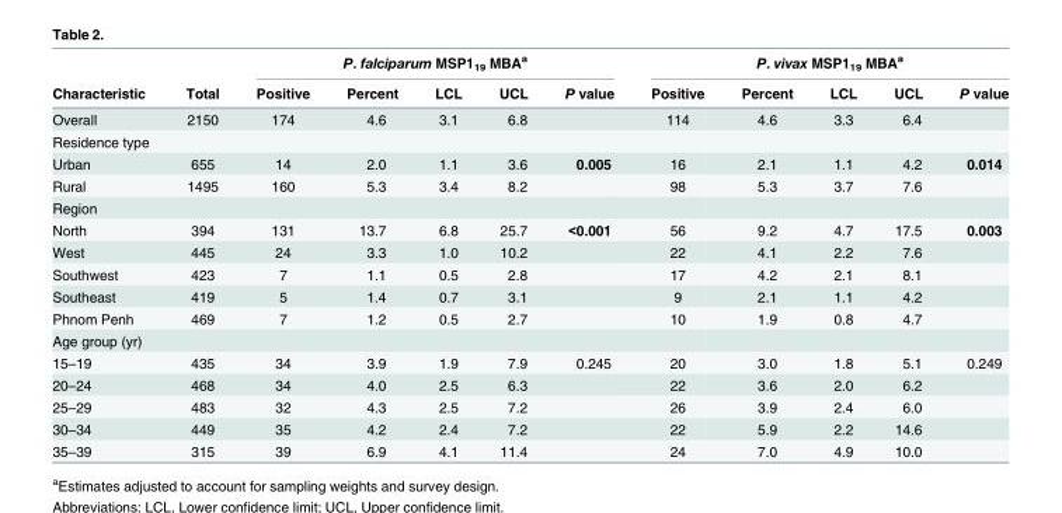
<table><thead><tr><td rowspan="2">Characteristic</td><td rowspan="2">Total</td><td colspan="5">P. falciparum MSP1<sub>19</sub> MBA<sup>a</sup></td><td colspan="5">P. vivax MSP1<sub>19</sub> MBA<sup>a</sup></td></tr><tr><td>Positive</td><td>Percent</td><td>LCL</td><td>UCL</td><td>P value</td><td>Positive</td><td>Percent</td><td>LCL</td><td>UCL</td><td>P value</td></tr></thead><tbody><tr><td>Overall</td><td>2150</td><td>174</td><td>4.6</td><td>3.1</td><td>6.8</td><td></td><td>114</td><td>4.6</td><td>3.3</td><td>6.4</td><td></td></tr><tr><td colspan="12">Residence type</td></tr><tr><td>Urban</td><td>655</td><td>14</td><td>2.0</td><td>1.1</td><td>3.6</td><td>0.005</td><td>16</td><td>2.1</td><td>1.1</td><td>4.2</td><td>0.014</td></tr><tr><td>Rural</td><td>1495</td><td>160</td><td>5.3</td><td>3.4</td><td>8.2</td><td></td><td>98</td><td>5.3</td><td>3.7</td><td>7.6</td><td></td></tr><tr><td colspan="12">Region</td></tr><tr><td>North</td><td>394</td><td>131</td><td>13.7</td><td>6.8</td><td>25.7</td><td>&lt;0.001</td><td>56</td><td>9.2</td><td>4.7</td><td>17.5</td><td>0.003</td></tr><tr><td>West</td><td>445</td><td>24</td><td>3.3</td><td>1.0</td><td>10.2</td><td></td><td>22</td><td>4.1</td><td>2.2</td><td>7.6</td><td></td></tr><tr><td>Southwest</td><td>423</td><td>7</td><td>1.1</td><td>0.5</td><td>2.8</td><td></td><td>17</td><td>4.2</td><td>2.1</td><td>8.1</td><td></td></tr><tr><td>Southeast</td><td>419</td><td>5</td><td>1.4</td><td>0.7</td><td>3.1</td><td></td><td>9</td><td>2.1</td><td>1.1</td><td>4.2</td><td></td></tr><tr><td>Phnom Penh</td><td>469</td><td>7</td><td>1.2</td><td>0.5</td><td>2.7</td><td></td><td>10</td><td>1.9</td><td>0.8</td><td>4.7</td><td></td></tr><tr><td colspan="12">Age group (yr)</td></tr><tr><td>15–19</td><td>435</td><td>34</td><td>3.9</td><td>1.9</td><td>7.9</td><td>0.245</td><td>20</td><td>3.0</td><td>1.8</td><td>5.1</td><td>0.249</td></tr><tr><td>20–24</td><td>468</td><td>34</td><td>4.0</td><td>2.5</td><td>6.3</td><td></td><td>22</td><td>3.6</td><td>2.0</td><td>6.2</td><td></td></tr><tr><td>25–29</td><td>483</td><td>32</td><td>4.3</td><td>2.5</td><td>7.2</td><td></td><td>26</td><td>3.9</td><td>2.4</td><td>6.0</td><td></td></tr><tr><td>30–34</td><td>449</td><td>35</td><td>4.2</td><td>2.4</td><td>7.2</td><td></td><td>22</td><td>5.9</td><td>2.2</td><td>14.6</td><td></td></tr><tr><td>35–39</td><td>315</td><td>39</td><td>6.9</td><td>4.1</td><td>11.4</td><td></td><td>24</td><td>7.0</td><td>4.9</td><td>10.0</td><td></td></tr></tbody></table>